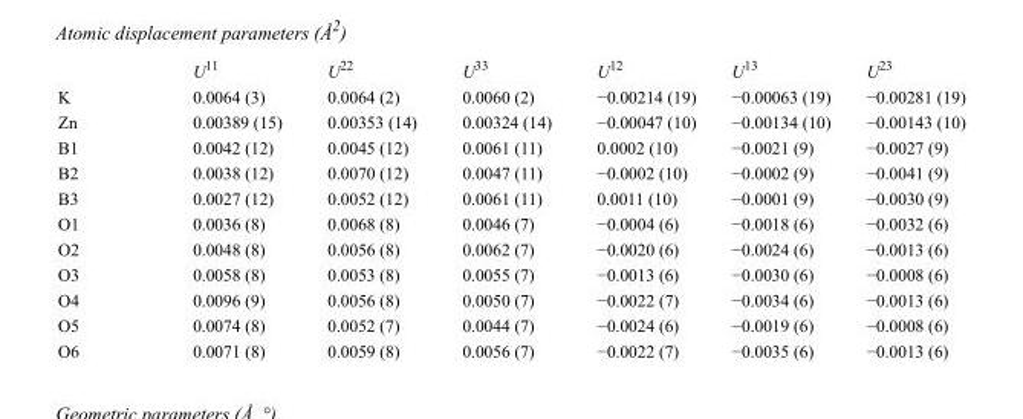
<table><thead><tr><td></td><td>U<sup>11</sup></td><td>U<sup>22</sup></td><td>U<sup>33</sup></td><td>U<sup>12</sup></td><td>U<sup>13</sup></td><td>U<sup>23</sup></td></tr></thead><tbody><tr><td>K</td><td>0.0064 (3)</td><td>0.0064 (2)</td><td>0.0060 (2)</td><td>−0.00214 (19)</td><td>−0.00063 (19)</td><td>−0.00281 (19)</td></tr><tr><td>Zn</td><td>0.00389 (15)</td><td>0.00353 (14)</td><td>0.00324 (14)</td><td>−0.00047 (10)</td><td>−0.00134 (10)</td><td>−0.00143 (10)</td></tr><tr><td>B1</td><td>0.0042 (12)</td><td>0.0045 (12)</td><td>0.0061 (11)</td><td>0.0002 (10)</td><td>−0.0021 (9)</td><td>−0.0027 (9)</td></tr><tr><td>B2</td><td>0.0038 (12)</td><td>0.0070 (12)</td><td>0.0047 (11)</td><td>−0.0002 (10)</td><td>−0.0002 (9)</td><td>−0.0041 (9)</td></tr><tr><td>B3</td><td>0.0027 (12)</td><td>0.0052 (12)</td><td>0.0061 (11)</td><td>0.0011 (10)</td><td>−0.0001 (9)</td><td>−0.0030 (9)</td></tr><tr><td>O1</td><td>0.0036 (8)</td><td>0.0068 (8)</td><td>0.0046 (7)</td><td>−0.0004 (6)</td><td>−0.0018 (6)</td><td>−0.0032 (6)</td></tr><tr><td>O2</td><td>0.0048 (8)</td><td>0.0056 (8)</td><td>0.0062 (7)</td><td>−0.0020 (6)</td><td>−0.0024 (6)</td><td>−0.0013 (6)</td></tr><tr><td>O3</td><td>0.0058 (8)</td><td>0.0053 (8)</td><td>0.0055 (7)</td><td>−0.0013 (6)</td><td>−0.0030 (6)</td><td>−0.0008 (6)</td></tr><tr><td>O4</td><td>0.0096 (9)</td><td>0.0056 (8)</td><td>0.0050 (7)</td><td>−0.0022 (7)</td><td>−0.0034 (6)</td><td>−0.0013 (6)</td></tr><tr><td>O5</td><td>0.0074 (8)</td><td>0.0052 (7)</td><td>0.0044 (7)</td><td>−0.0024 (6)</td><td>−0.0019 (6)</td><td>−0.0008 (6)</td></tr><tr><td>O6</td><td>0.0071 (8)</td><td>0.0059 (8)</td><td>0.0056 (7)</td><td>−0.0022 (7)</td><td>−0.0035 (6)</td><td>−0.0013 (6)</td></tr></tbody></table>